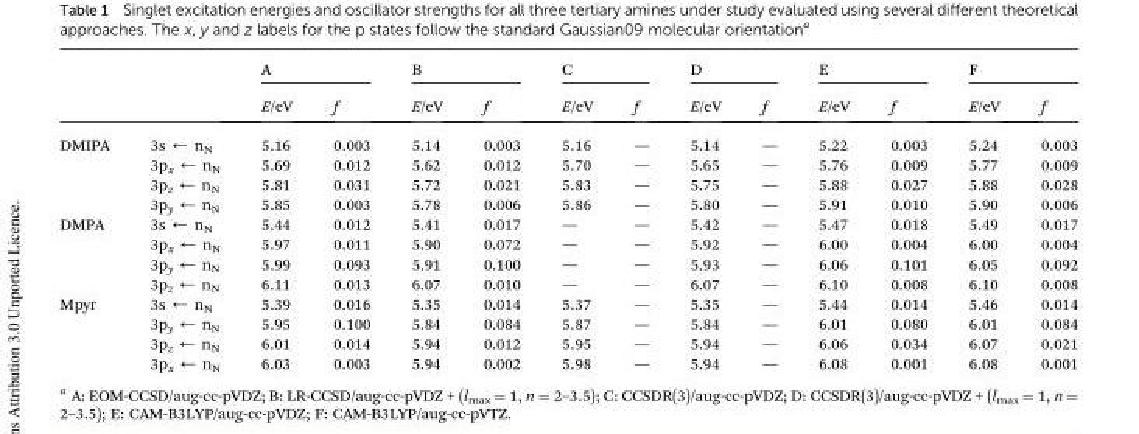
<table><thead><tr><td rowspan="2"></td><td rowspan="2"></td><td colspan="2">A</td><td colspan="2">B</td><td colspan="2">C</td><td colspan="2">D</td><td colspan="2">E</td><td colspan="2">F</td></tr><tr><td>E/eV</td><td>f</td><td>E/eV</td><td>f</td><td>E/eV</td><td>f</td><td>E/eV</td><td>f</td><td>E/eV</td><td>f</td><td>E/eV</td><td>f</td></tr></thead><tbody><tr><td rowspan="4">DMIPA</td><td>3s ← n<sub>N</sub></td><td>5.16</td><td>0.003</td><td>5.14</td><td>0.003</td><td>5.16</td><td>—</td><td>5.14</td><td>—</td><td>5.22</td><td>0.003</td><td>5.24</td><td>0.003</td></tr><tr><td>3p<sub>x</sub> ← n<sub>N</sub></td><td>5.69</td><td>0.012</td><td>5.62</td><td>0.012</td><td>5.70</td><td>—</td><td>5.65</td><td>—</td><td>5.76</td><td>0.009</td><td>5.77</td><td>0.009</td></tr><tr><td>3p<sub>z</sub> ← n<sub>N</sub></td><td>5.81</td><td>0.031</td><td>5.72</td><td>0.021</td><td>5.83</td><td>—</td><td>5.75</td><td>—</td><td>5.88</td><td>0.027</td><td>5.88</td><td>0.028</td></tr><tr><td>3p<sub>y</sub> ← n<sub>N</sub></td><td>5.85</td><td>0.003</td><td>5.78</td><td>0.006</td><td>5.86</td><td>—</td><td>5.80</td><td>—</td><td>5.91</td><td>0.010</td><td>5.90</td><td>0.006</td></tr><tr><td rowspan="4">DMPA</td><td>3s ← n<sub>N</sub></td><td>5.44</td><td>0.012</td><td>5.41</td><td>0.017</td><td>—</td><td>—</td><td>5.42</td><td>—</td><td>5.47</td><td>0.018</td><td>5.49</td><td>0.017</td></tr><tr><td>3p<sub>x</sub> ← n<sub>N</sub></td><td>5.97</td><td>0.011</td><td>5.90</td><td>0.072</td><td>—</td><td>—</td><td>5.92</td><td>—</td><td>6.00</td><td>0.004</td><td>6.00</td><td>0.004</td></tr><tr><td>3p<sub>y</sub> ← n<sub>N</sub></td><td>5.99</td><td>0.093</td><td>5.91</td><td>0.100</td><td>—</td><td>—</td><td>5.93</td><td>—</td><td>6.06</td><td>0.101</td><td>6.05</td><td>0.092</td></tr><tr><td>3p<sub>z</sub> ← n<sub>N</sub></td><td>6.11</td><td>0.013</td><td>6.07</td><td>0.010</td><td>—</td><td>—</td><td>6.07</td><td>—</td><td>6.10</td><td>0.008</td><td>6.10</td><td>0.008</td></tr><tr><td rowspan="4">Mpyr</td><td>3s ← n<sub>N</sub></td><td>5.39</td><td>0.016</td><td>5.35</td><td>0.014</td><td>5.37</td><td>—</td><td>5.35</td><td>—</td><td>5.44</td><td>0.014</td><td>5.46</td><td>0.014</td></tr><tr><td>3p<sub>y</sub> ← n<sub>N</sub></td><td>5.95</td><td>0.100</td><td>5.84</td><td>0.084</td><td>5.87</td><td>—</td><td>5.84</td><td>—</td><td>6.01</td><td>0.080</td><td>6.01</td><td>0.084</td></tr><tr><td>3p<sub>z</sub> ← n<sub>N</sub></td><td>6.01</td><td>0.014</td><td>5.94</td><td>0.012</td><td>5.95</td><td>—</td><td>5.94</td><td>—</td><td>6.06</td><td>0.034</td><td>6.07</td><td>0.021</td></tr><tr><td>3p<sub>x</sub> ← n<sub>N</sub></td><td>6.03</td><td>0.003</td><td>5.94</td><td>0.002</td><td>5.98</td><td>—</td><td>5.94</td><td>—</td><td>6.08</td><td>0.001</td><td>6.08</td><td>0.001</td></tr></tbody></table>